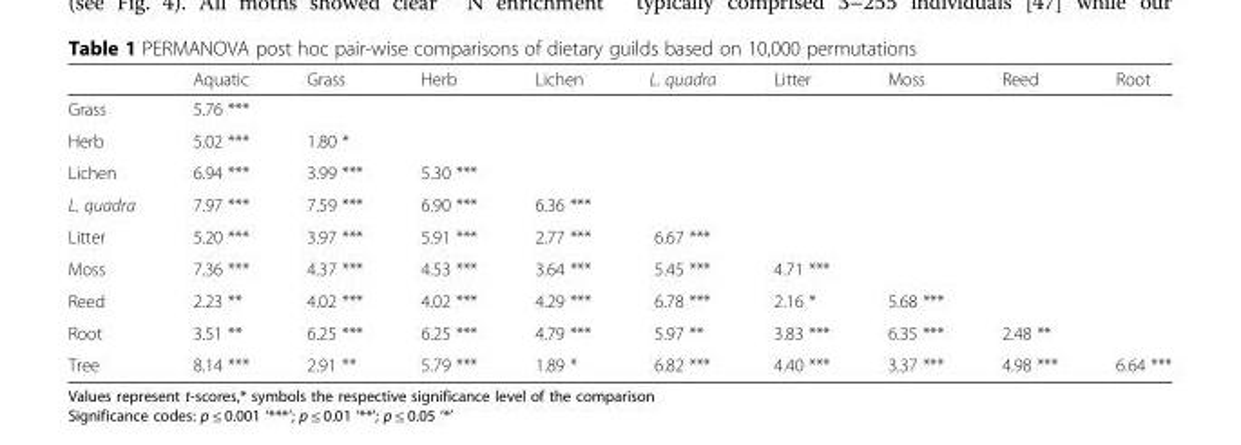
<table><thead><tr><td></td><td>Aquatic</td><td>Grass</td><td>Herb</td><td>Lichen</td><td>L. quadra</td><td>Litter</td><td>Moss</td><td>Reed</td><td>Root</td></tr></thead><tbody><tr><td>Grass</td><td>5.76 ***</td><td></td><td></td><td></td><td></td><td></td><td></td><td></td><td></td></tr><tr><td>Herb</td><td>5.02 ***</td><td>1.80 *</td><td></td><td></td><td></td><td></td><td></td><td></td><td></td></tr><tr><td>Lichen</td><td>6.94 ***</td><td>3.99 ***</td><td>5.30 ***</td><td></td><td></td><td></td><td></td><td></td><td></td></tr><tr><td>L. quadra</td><td>7.97 ***</td><td>7.59 ***</td><td>6.90 ***</td><td>6.36 ***</td><td></td><td></td><td></td><td></td><td></td></tr><tr><td>Litter</td><td>5.20 ***</td><td>3.97 ***</td><td>5.91 ***</td><td>2.77 ***</td><td>6.67 ***</td><td></td><td></td><td></td><td></td></tr><tr><td>Moss</td><td>7.36 ***</td><td>4.37 ***</td><td>4.53 ***</td><td>3.64 ***</td><td>5.45 ***</td><td>4.71 ***</td><td></td><td></td><td></td></tr><tr><td>Reed</td><td>2.23 **</td><td>4.02 ***</td><td>4.02 ***</td><td>4.29 ***</td><td>6.78 ***</td><td>2.16 *</td><td>5.68 ***</td><td></td><td></td></tr><tr><td>Root</td><td>3.51 **</td><td>6.25 ***</td><td>6.25 ***</td><td>4.79 ***</td><td>5.97 **</td><td>3.83 ***</td><td>6.35 ***</td><td>2.48 **</td><td></td></tr><tr><td>Tree</td><td>8.14 ***</td><td>2.91 **</td><td>5.79 ***</td><td>1.89 *</td><td>6.82 ***</td><td>4.40 ***</td><td>3.37 ***</td><td>4.98 ***</td><td>6.64 ***</td></tr></tbody></table>